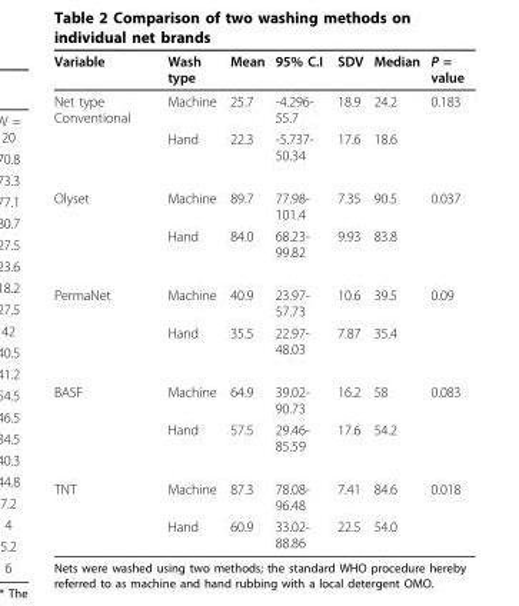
<table><thead><tr><td>Variable</td><td>Wash type</td><td>Mean</td><td>95% C.I</td><td>SDV</td><td>Median</td><td>P = value</td></tr></thead><tbody><tr><td rowspan="2">Net type Conventional</td><td>Machine</td><td>25.7</td><td>-4.296- 55.7</td><td>18.9</td><td>24.2</td><td>0.183</td></tr><tr><td>Hand</td><td>22.3</td><td>-5.737- 50.34</td><td>17.6</td><td>18.6</td><td></td></tr><tr><td rowspan="2">Olyset</td><td>Machine</td><td>89.7</td><td>77.98- 101.4</td><td>7.35</td><td>90.5</td><td>0.037</td></tr><tr><td>Hand</td><td>84.0</td><td>68.23- 99.82</td><td>9.93</td><td>83.8</td><td></td></tr><tr><td rowspan="2">PermaNet</td><td>Machine</td><td>40.9</td><td>23.97- 57.73</td><td>10.6</td><td>39.5</td><td>0.09</td></tr><tr><td>Hand</td><td>35.5</td><td>22.97- 48.03</td><td>7.87</td><td>35.4</td><td></td></tr><tr><td rowspan="2">BASF</td><td>Machine</td><td>64.9</td><td>39.02- 90.73</td><td>16.2</td><td>58</td><td>0.083</td></tr><tr><td>Hand</td><td>57.5</td><td>29.46- 85.59</td><td>17.6</td><td>54.2</td><td></td></tr><tr><td rowspan="2">TNT</td><td>Machine</td><td>87.3</td><td>78.08- 96.48</td><td>7.41</td><td>84.6</td><td>0.018</td></tr><tr><td>Hand</td><td>60.9</td><td>33.02- 88.86</td><td>22.5</td><td>54.0</td><td></td></tr></tbody></table>